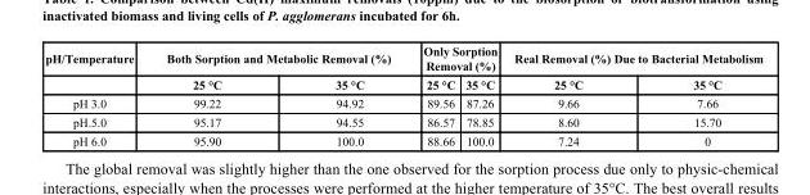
<table><thead><tr><td rowspan="2">pH/Temperature</td><td colspan="2">Both Sorption and Metabolic Removal (%)</td><td colspan="2">Only Sorption Removal (%)</td><td colspan="2">Real Removal (%) Due to Bacterial Metabolism</td></tr><tr><td>25 °C</td><td>35 °C</td><td>25 °C</td><td>35 °C</td><td>25 °C</td><td>35 °C</td></tr></thead><tbody><tr><td>pH 3.0</td><td>99.22</td><td>94.92</td><td>89.56</td><td>87.26</td><td>9.66</td><td>7.66</td></tr><tr><td>pH.5.0</td><td>95.17</td><td>94.55</td><td>86.57</td><td>78.85</td><td>8.60</td><td>15.70</td></tr><tr><td>pH 6.0</td><td>95.90</td><td>100.0</td><td>88.66</td><td>100.0</td><td>7.24</td><td>0</td></tr></tbody></table>